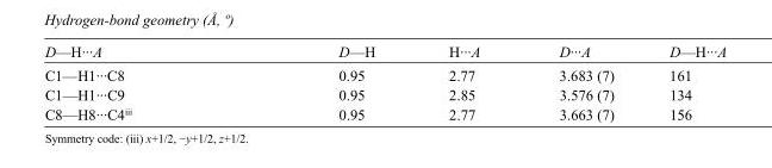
<table><tbody><tr><td>D—H···A</td><td>D—H</td><td>H···A</td><td>D···A</td><td>D—H···A</td></tr><tr><td>C1—H1···C8</td><td>0.95</td><td>2.77</td><td>3.683 (7)</td><td>161</td></tr><tr><td>C1—H1···C9</td><td>0.95</td><td>2.85</td><td>3.576 (7)</td><td>134</td></tr><tr><td>C8—H8···C4<sup>iii</sup></td><td>0.95</td><td>2.77</td><td>3.663 (7)</td><td>156</td></tr></tbody></table>